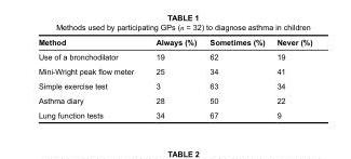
<table><thead><tr><td>Method</td><td>always (%)</td><td>Sometimes (%)</td><td>Never (%)</td></tr></thead><tbody><tr><td>Use of a bronchodilator</td><td>19</td><td>62</td><td>19</td></tr><tr><td>Mini-Wright peak flow meter</td><td>25</td><td>34</td><td>41</td></tr><tr><td>Simple exercise test</td><td>3</td><td>63</td><td>34</td></tr><tr><td>Asthma diary</td><td>28</td><td>50</td><td>22</td></tr><tr><td>Lung function tests</td><td>34</td><td>67</td><td>9</td></tr></tbody></table>